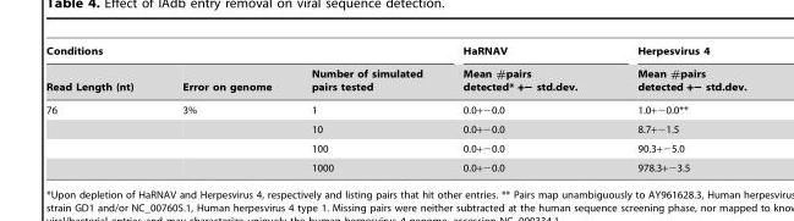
<table><thead><tr><td colspan="3">Conditions</td><td rowspan="2">HaRNAV Mean #pairs detected* +− std.dev.</td><td rowspan="2">Herpesvirus 4 Mean #pairs detected +− std.dev.</td></tr><tr><td>Read Length (nt)</td><td>Error on genome</td><td>Number of simulated pairs tested</td></tr></thead><tbody><tr><td rowspan="4">76</td><td>3%</td><td>1</td><td>0.0+−0.0</td><td>1.0+−0.0**</td></tr><tr><td></td><td>10</td><td>0.0+−0.0</td><td>8.7+−1.5</td></tr><tr><td></td><td>100</td><td>0.0+−0.0</td><td>90.3+−5.0</td></tr><tr><td></td><td>1000</td><td>0.0+−0.0</td><td>978.3+−3.5</td></tr></tbody></table>